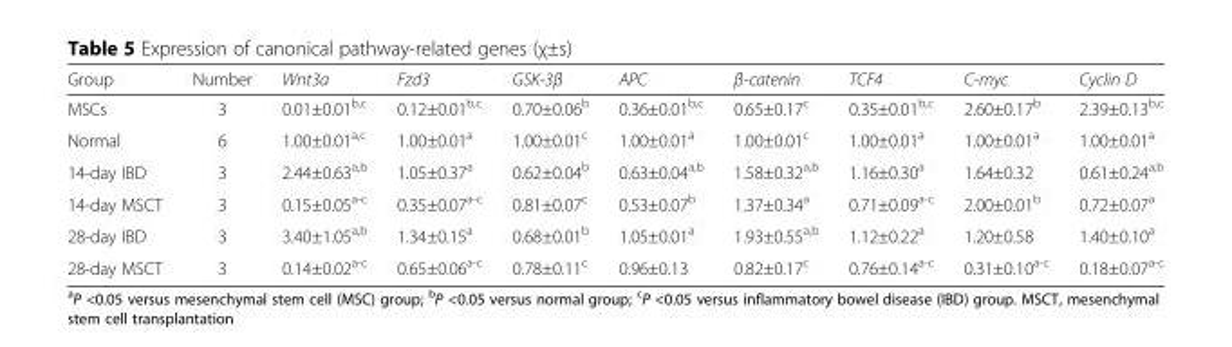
<table><thead><tr><td>Group</td><td>Number</td><td>Wnt3a</td><td>Fzd3</td><td>GSK-3β</td><td>APC</td><td>β-catenin</td><td>TCF4</td><td>C-myc</td><td>Cyclin D</td></tr></thead><tbody><tr><td>MSCs</td><td>3</td><td>0.01±0.01<sup>b,c</sup></td><td>0.12±0.01<sup>b,c</sup></td><td>0.70±0.06<sup>b</sup></td><td>0.36±0.01<sup>b,c</sup></td><td>0.65±0.17<sup>c</sup></td><td>0.35±0.01<sup>b,c</sup></td><td>2.60±0.17<sup>b</sup></td><td>2.39±0.13<sup>b,c</sup></td></tr><tr><td>Normal</td><td>6</td><td>1.00±0.01<sup>a,c</sup></td><td>1.00±0.01<sup>a</sup></td><td>1.00±0.01<sup>c</sup></td><td>1.00±0.01<sup>a</sup></td><td>1.00±0.01<sup>c</sup></td><td>1.00±0.01<sup>a</sup></td><td>1.00±0.01<sup>a</sup></td><td>1.00±0.01<sup>a</sup></td></tr><tr><td>14-day IBD</td><td>3</td><td>2.44±0.63<sup>a,b</sup></td><td>1.05±0.37<sup>a</sup></td><td>0.62±0.04<sup>b</sup></td><td>0.63±0.04<sup>a,b</sup></td><td>1.58±0.32<sup>a,b</sup></td><td>1.16±0.30<sup>a</sup></td><td>1.64±0.32</td><td>0.61±0.24<sup>a,b</sup></td></tr><tr><td>14-day MSCT</td><td>3</td><td>0.15±0.05<sup>a-c</sup></td><td>0.35±0.07<sup>a-c</sup></td><td>0.81±0.07<sup>c</sup></td><td>0.53±0.07<sup>b</sup></td><td>1.37±0.34<sup>a</sup></td><td>0.71±0.09<sup>a-c</sup></td><td>2.00±0.01<sup>b</sup></td><td>0.72±0.07<sup>a</sup></td></tr><tr><td>28-day IBD</td><td>3</td><td>3.40±1.05<sup>a,b</sup></td><td>1.34±0.15<sup>a</sup></td><td>0.68±0.01<sup>b</sup></td><td>1.05±0.01<sup>a</sup></td><td>1.93±0.55<sup>a,b</sup></td><td>1.12±0.22<sup>a</sup></td><td>1.20±0.58</td><td>1.40±0.10<sup>a</sup></td></tr><tr><td>28-day MSCT</td><td>3</td><td>0.14±0.02<sup>a-c</sup></td><td>0.65±0.06<sup>a-c</sup></td><td>0.78±0.11<sup>c</sup></td><td>0.96±0.13</td><td>0.82±0.17<sup>c</sup></td><td>0.76±0.14<sup>a-c</sup></td><td>0.31±0.10<sup>a-c</sup></td><td>0.18±0.07<sup>a-c</sup></td></tr></tbody></table>